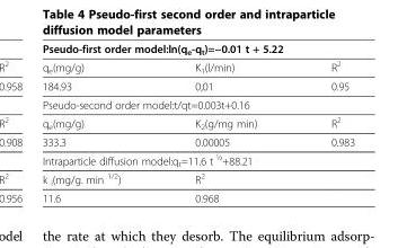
<table><thead><tr><td colspan="3">Pseudo-first order model:ln(q<sub>e</sub>-q<sub>t</sub>)=−0.01 t + 5.22</td></tr><tr><td>q<sub>e</sub>(mg/g)</td><td>K<sub>1</sub>(l/min)</td><td>R<sup>2</sup></td></tr></thead><tbody><tr><td>184.93</td><td>0,01</td><td>0.95</td></tr><tr><td colspan="3">Pseudo-second order model:t/qt=0.003t+0.16</td></tr><tr><td>q<sub>e</sub>(mg/g)</td><td>K<sub>2</sub>(g/mg min)</td><td>R<sup>2</sup></td></tr><tr><td>333.3</td><td>0.00005</td><td>0.983</td></tr><tr><td colspan="3">Intraparticle diffusion model:q<sub>t</sub>=11.6 t <sup>½</sup>+88.21</td></tr><tr><td>k <sub>i</sub>(mg/g. min <sup>1/2</sup>)</td><td>R<sup>2</sup></td><td></td></tr><tr><td>11.6</td><td>0.968</td><td></td></tr></tbody></table>